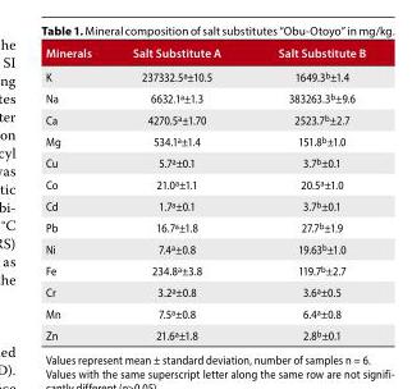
<table><thead><tr><td>Minerals</td><td>Salt Substitute A</td><td>Salt Substitute B</td></tr></thead><tbody><tr><td>K</td><td>237332.5<sup>a</sup>±10.5</td><td>1649.3<sup>b</sup>±1.4</td></tr><tr><td>Na</td><td>6632.1<sup>a</sup>±1.3</td><td>383263.3<sup>b</sup>±9.6</td></tr><tr><td>Ca</td><td>4270.5<sup>a</sup>±1.70</td><td>2523.7<sup>b</sup>±2.7</td></tr><tr><td>Mg</td><td>534.1<sup>a</sup>±1.4</td><td>151.8<sup>b</sup>±1.0</td></tr><tr><td>Cu</td><td>5.7<sup>a</sup>±0.1</td><td>3.7<sup>b</sup>±0.1</td></tr><tr><td>Co</td><td>21.0<sup>a</sup>±1.1</td><td>20.5<sup>a</sup>±1.0</td></tr><tr><td>Cd</td><td>1.7<sup>a</sup>±0.1</td><td>3.7<sup>b</sup>±0.1</td></tr><tr><td>Pb</td><td>16.7<sup>a</sup>±1.8</td><td>27.7<sup>b</sup>±1.9</td></tr><tr><td>Ni</td><td>7.4<sup>a</sup>±0.8</td><td>19.63<sup>b</sup>±1.0</td></tr><tr><td>Fe</td><td>234.8<sup>a</sup>±3.8</td><td>119.7<sup>b</sup>±2.7</td></tr><tr><td>Cr</td><td>3.2<sup>a</sup>±0.8</td><td>3.6<sup>a</sup>±0.5</td></tr><tr><td>Mn</td><td>7.5<sup>a</sup>±0.8</td><td>6.4<sup>a</sup>±0.8</td></tr><tr><td>Zn</td><td>21.6<sup>a</sup>±1.8</td><td>2.8<sup>b</sup>±0.1</td></tr></tbody></table>